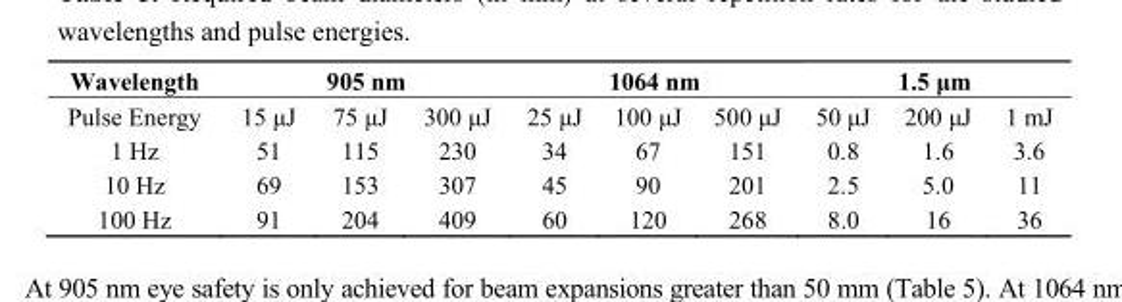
<table><thead><tr><td rowspan="2">Wavelength Pulse Energy</td><td colspan="3">905 nm</td><td colspan="3">1064 nm</td><td colspan="3">1.5 μm</td></tr><tr><td>15 μJ</td><td>75 μJ</td><td>300 μJ</td><td>25 μJ</td><td>100 μJ</td><td>500 μJ</td><td>50 μJ</td><td>200 μJ</td><td>1 mJ</td></tr></thead><tbody><tr><td>1 Hz</td><td>51</td><td>115</td><td>230</td><td>34</td><td>67</td><td>151</td><td>0.8</td><td>1.6</td><td>3.6</td></tr><tr><td>10 Hz</td><td>69</td><td>153</td><td>307</td><td>45</td><td>90</td><td>201</td><td>2.5</td><td>5.0</td><td>11</td></tr><tr><td>100 Hz</td><td>91</td><td>204</td><td>409</td><td>60</td><td>120</td><td>268</td><td>8.0</td><td>16</td><td>36</td></tr></tbody></table>